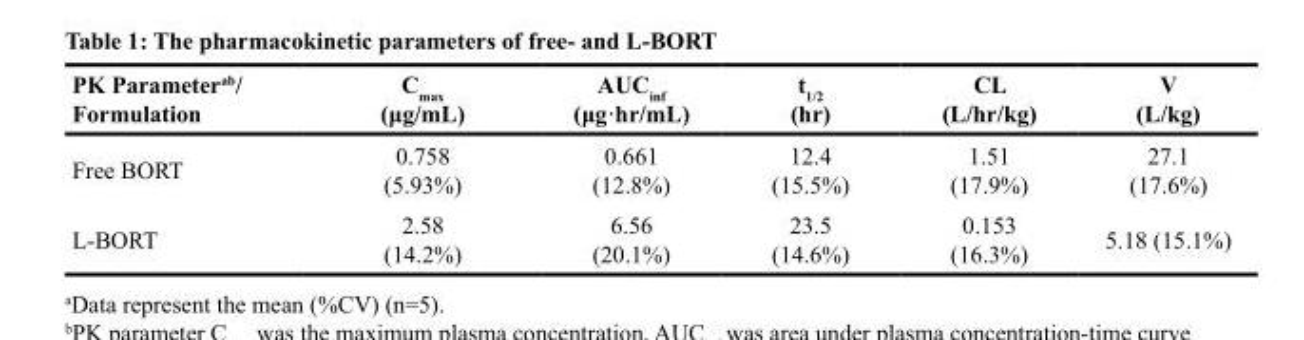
<table><thead><tr><td>PK Parameter<sup>ab</sup>/ Formulation</td><td>C<sub>max</sub> (μg/mL)</td><td>AUC<sub>inf</sub> (μg·hr/mL)</td><td>t<sub>1/2</sub> (hr)</td><td>CL (L/hr/kg)</td><td>V (L/kg)</td></tr></thead><tbody><tr><td>Free BORT</td><td>0.758 (5.93%)</td><td>0.661 (12.8%)</td><td>12.4 (15.5%)</td><td>1.51 (17.9%)</td><td>27.1 (17.6%)</td></tr><tr><td>L-BORT</td><td>2.58 (14.2%)</td><td>6.56 (20.1%)</td><td>23.5 (14.6%)</td><td>0.153 (16.3%)</td><td>5.18 (15.1%)</td></tr></tbody></table>